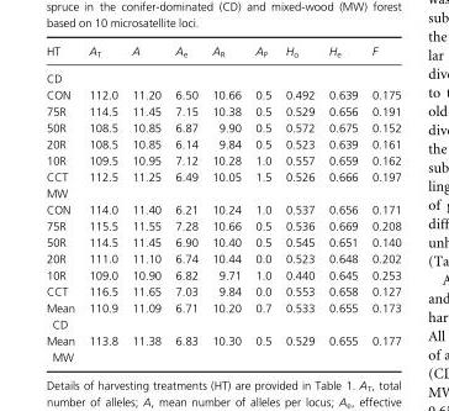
<table><thead><tr><td>HT</td><td>A<sub>T</sub></td><td>A</td><td>A<sub>e</sub></td><td>A<sub>R</sub></td><td>A<sub>P</sub></td><td>H<sub>o</sub></td><td>H<sub>e</sub></td><td>F</td></tr></thead><tbody><tr><td colspan="9">CD</td></tr><tr><td>CON</td><td>112.0</td><td>11.20</td><td>6.50</td><td>10.66</td><td>0.5</td><td>0.492</td><td>0.639</td><td>0.175</td></tr><tr><td>75R</td><td>114.5</td><td>11.45</td><td>7.15</td><td>10.38</td><td>0.5</td><td>0.529</td><td>0.656</td><td>0.191</td></tr><tr><td>50R</td><td>108.5</td><td>10.85</td><td>6.87</td><td>9.90</td><td>0.5</td><td>0.572</td><td>0.675</td><td>0.152</td></tr><tr><td>20R</td><td>108.5</td><td>10.85</td><td>6.14</td><td>9.84</td><td>0.5</td><td>0.523</td><td>0.639</td><td>0.161</td></tr><tr><td>10R</td><td>109.5</td><td>10.95</td><td>7.12</td><td>10.28</td><td>1.0</td><td>0.557</td><td>0.659</td><td>0.162</td></tr><tr><td>CCT</td><td>112.5</td><td>11.25</td><td>6.49</td><td>10.05</td><td>1.5</td><td>0.526</td><td>0.666</td><td>0.197</td></tr><tr><td colspan="9">MW</td></tr><tr><td>CON</td><td>114.0</td><td>11.40</td><td>6.21</td><td>10.24</td><td>1.0</td><td>0.537</td><td>0.656</td><td>0.171</td></tr><tr><td>75R</td><td>115.5</td><td>11.55</td><td>7.28</td><td>10.66</td><td>0.5</td><td>0.536</td><td>0.669</td><td>0.208</td></tr><tr><td>50R</td><td>114.5</td><td>11.45</td><td>6.90</td><td>10.40</td><td>0.5</td><td>0.545</td><td>0.651</td><td>0.140</td></tr><tr><td>20R</td><td>111.0</td><td>11.10</td><td>6.74</td><td>10.44</td><td>0.0</td><td>0.523</td><td>0.648</td><td>0.202</td></tr><tr><td>10R</td><td>109.0</td><td>10.90</td><td>6.82</td><td>9.71</td><td>1.0</td><td>0.440</td><td>0.645</td><td>0.253</td></tr><tr><td>CCT</td><td>116.5</td><td>11.65</td><td>7.03</td><td>9.84</td><td>0.0</td><td>0.553</td><td>0.658</td><td>0.127</td></tr><tr><td>Mean CD</td><td>110.9</td><td>11.09</td><td>6.71</td><td>10.20</td><td>0.7</td><td>0.533</td><td>0.655</td><td>0.173</td></tr><tr><td>Mean MW</td><td>113.8</td><td>11.38</td><td>6.83</td><td>10.30</td><td>0.5</td><td>0.529</td><td>0.655</td><td>0.177</td></tr></tbody></table>